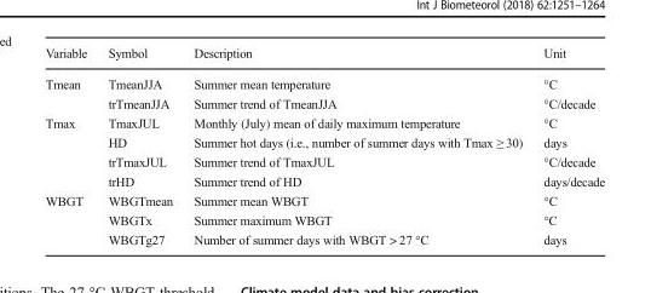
<table><thead><tr><td>Variable</td><td>Symbol</td><td>Description</td><td>Unit</td></tr></thead><tbody><tr><td rowspan="2">Tmean</td><td>TmeanJJA</td><td>Summer mean temperature</td><td>°C</td></tr><tr><td>trTmeanJJA</td><td>Summer trend of TmeanJJA</td><td>°C/decade</td></tr><tr><td rowspan="4">Tmax</td><td>TmaxJUL</td><td>Monthly (July) mean of daily maximum temperature</td><td>°C</td></tr><tr><td>HD</td><td>Summer hot days (i.e., number of summer days with Tmax ≥ 30)</td><td>days</td></tr><tr><td>trTmaxJUL</td><td>Summer trend of TmaxJUL</td><td>°C/decade</td></tr><tr><td>trHD</td><td>Summer trend of HD</td><td>days/decade</td></tr><tr><td rowspan="3">WBGT</td><td>WBGTmean</td><td>Summer mean WBGT</td><td>°C</td></tr><tr><td>WBGTx</td><td>Summer maximum WBGT</td><td>°C</td></tr><tr><td>WBGTg27</td><td>Number of summer days with WBGT &gt; 27 °C</td><td>days</td></tr></tbody></table>